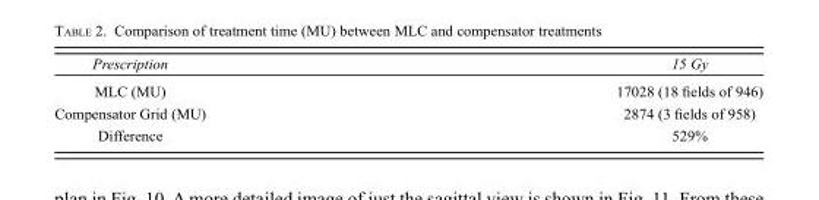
<table><thead><tr><td>Prescription</td><td>15 Gy</td></tr></thead><tbody><tr><td>MLC (MU)</td><td>17028 (18 fields of 946)</td></tr><tr><td>Compensator Grid (MU)</td><td>2874 (3 fields of 958)</td></tr><tr><td>Difference</td><td>529%</td></tr></tbody></table>